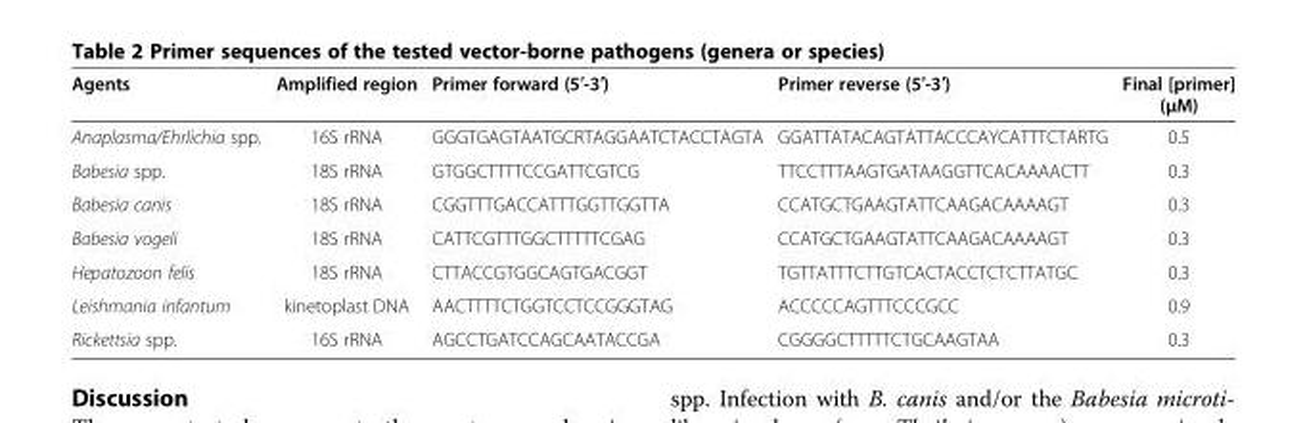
<table><thead><tr><td>Agents</td><td>Amplified region</td><td>Primer forward (5′-3′)</td><td>Primer reverse (5′-3′)</td><td>Final [primer] (μM)</td></tr></thead><tbody><tr><td>Anaplasma/Ehrlichia spp.</td><td>16S rRNA</td><td>GGGTGAGTAATGCRTAGGAATCTACCTAGTA</td><td>GGATTATACAGTATTACCCAYCATTTCTARTG</td><td>0.5</td></tr><tr><td>Babesia spp.</td><td>18S rRNA</td><td>GTGGCTTTTCCGATTCGTCG</td><td>TTCCTTTAAGTGATAAGGTTCACAAAACTT</td><td>0.3</td></tr><tr><td>Babesia canis</td><td>18S rRNA</td><td>CGGTTTGACCATTTGGTTGGTTA</td><td>CCATGCTGAAGTATTCAAGACAAAAGT</td><td>0.3</td></tr><tr><td>Babesia vogeli</td><td>18S rRNA</td><td>CATTCGTTTGGCTTTTTCGAG</td><td>CCATGCTGAAGTATTCAAGACAAAAGT</td><td>0.3</td></tr><tr><td>Hepatozoon felis</td><td>18S rRNA</td><td>CTTACCGTGGCAGTGACGGT</td><td>TGTTATTTCTTGTCACTACCTCTCTTATGC</td><td>0.3</td></tr><tr><td>Leishmania infantum</td><td>kinetoplast DNA</td><td>AACTTTTCTGGTCCTCCGGGTAG</td><td>ACCCCCAGTTTCCCGCC</td><td>0.9</td></tr><tr><td>Rickettsia spp.</td><td>16S rRNA</td><td>AGCCTGATCCAGCAATACCGA</td><td>CGGGGCTTTTTCTGCAAGTAA</td><td>0.3</td></tr></tbody></table>